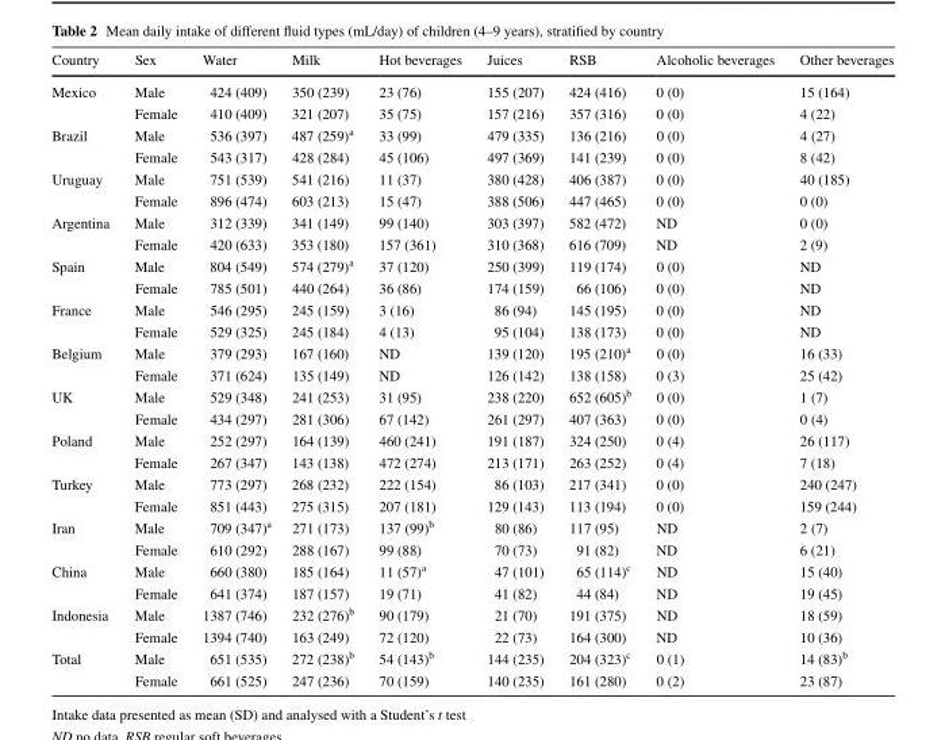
<table><thead><tr><td>Country</td><td>Sex</td><td>Water</td><td>Milk</td><td>Hot beverages</td><td>Juices</td><td>RSB</td><td>Alcoholic beverages</td><td>Other beverages</td></tr></thead><tbody><tr><td rowspan="2">Mexico</td><td>Male</td><td>424 (409)</td><td>350 (239)</td><td>23 (76)</td><td>155 (207)</td><td>424 (416)</td><td>0 (0)</td><td>15 (164)</td></tr><tr><td>Female</td><td>410 (409)</td><td>321 (207)</td><td>35 (75)</td><td>157 (216)</td><td>357 (316)</td><td>0 (0)</td><td>4 (22)</td></tr><tr><td rowspan="2">Brazil</td><td>Male</td><td>536 (397)</td><td>487 (259)<sup>a</sup></td><td>33 (99)</td><td>479 (335)</td><td>136 (216)</td><td>0 (0)</td><td>4 (27)</td></tr><tr><td>Female</td><td>543 (317)</td><td>428 (284)</td><td>45 (106)</td><td>497 (369)</td><td>141 (239)</td><td>0 (0)</td><td>8 (42)</td></tr><tr><td rowspan="2">Uruguay</td><td>Male</td><td>751 (539)</td><td>541 (216)</td><td>11 (37)</td><td>380 (428)</td><td>406 (387)</td><td>0 (0)</td><td>40 (185)</td></tr><tr><td>Female</td><td>896 (474)</td><td>603 (213)</td><td>15 (47)</td><td>388 (506)</td><td>447 (465)</td><td>0 (0)</td><td>0 (0)</td></tr><tr><td rowspan="2">Argentina</td><td>Male</td><td>312 (339)</td><td>341 (149)</td><td>99 (140)</td><td>303 (397)</td><td>582 (472)</td><td>ND</td><td>0 (0)</td></tr><tr><td>Female</td><td>420 (633)</td><td>353 (180)</td><td>157 (361)</td><td>310 (368)</td><td>616 (709)</td><td>ND</td><td>2 (9)</td></tr><tr><td rowspan="2">Spain</td><td>Male</td><td>804 (549)</td><td>574 (279)<sup>a</sup></td><td>37 (120)</td><td>250 (399)</td><td>119 (174)</td><td>0 (0)</td><td>ND</td></tr><tr><td>Female</td><td>785 (501)</td><td>440 (264)</td><td>36 (86)</td><td>174 (159)</td><td>66 (106)</td><td>0 (0)</td><td>ND</td></tr><tr><td rowspan="2">France</td><td>Male</td><td>546 (295)</td><td>245 (159)</td><td>3 (16)</td><td>86 (94)</td><td>145 (195)</td><td>0 (0)</td><td>ND</td></tr><tr><td>Female</td><td>529 (325)</td><td>245 (184)</td><td>4 (13)</td><td>95 (104)</td><td>138 (173)</td><td>0 (0)</td><td>ND</td></tr><tr><td rowspan="2">Belgium</td><td>Male</td><td>379 (293)</td><td>167 (160)</td><td>ND</td><td>139 (120)</td><td>195 (210)<sup>a</sup></td><td>0 (0)</td><td>16 (33)</td></tr><tr><td>Female</td><td>371 (624)</td><td>135 (149)</td><td>ND</td><td>126 (142)</td><td>138 (158)</td><td>0 (3)</td><td>25 (42)</td></tr><tr><td rowspan="2">UK</td><td>Male</td><td>529 (348)</td><td>241 (253)</td><td>31 (95)</td><td>238 (220)</td><td>652 (605)<sup>b</sup></td><td>0 (0)</td><td>1 (7)</td></tr><tr><td>Female</td><td>434 (297)</td><td>281 (306)</td><td>67 (142)</td><td>261 (297)</td><td>407 (363)</td><td>0 (0)</td><td>0 (4)</td></tr><tr><td rowspan="2">Poland</td><td>Male</td><td>252 (297)</td><td>164 (139)</td><td>460 (241)</td><td>191 (187)</td><td>324 (250)</td><td>0 (4)</td><td>26 (117)</td></tr><tr><td>Female</td><td>267 (347)</td><td>143 (138)</td><td>472 (274)</td><td>213 (171)</td><td>263 (252)</td><td>0 (4)</td><td>7 (18)</td></tr><tr><td rowspan="2">Turkey</td><td>Male</td><td>773 (297)</td><td>268 (232)</td><td>222 (154)</td><td>86 (103)</td><td>217 (341)</td><td>0 (0)</td><td>240 (247)</td></tr><tr><td>Female</td><td>851 (443)</td><td>275 (315)</td><td>207 (181)</td><td>129 (143)</td><td>113 (194)</td><td>0 (0)</td><td>159 (244)</td></tr><tr><td rowspan="2">Iran</td><td>Male</td><td>709 (347)<sup>a</sup></td><td>271 (173)</td><td>137 (99)<sup>b</sup></td><td>80 (86)</td><td>117 (95)</td><td>ND</td><td>2 (7)</td></tr><tr><td>Female</td><td>610 (292)</td><td>288 (167)</td><td>99 (88)</td><td>70 (73)</td><td>91 (82)</td><td>ND</td><td>6 (21)</td></tr><tr><td rowspan="2">China</td><td>Male</td><td>660 (380)</td><td>185 (164)</td><td>11 (57)<sup>a</sup></td><td>47 (101)</td><td>65 (114)<sup>c</sup></td><td>ND</td><td>15 (40)</td></tr><tr><td>Female</td><td>641 (374)</td><td>187 (157)</td><td>19 (71)</td><td>41 (82)</td><td>44 (84)</td><td>ND</td><td>19 (45)</td></tr><tr><td rowspan="2">Indonesia</td><td>Male</td><td>1387 (746)</td><td>232 (276)<sup>b</sup></td><td>90 (179)</td><td>21 (70)</td><td>191 (375)</td><td>ND</td><td>18 (59)</td></tr><tr><td>Female</td><td>1394 (740)</td><td>163 (249)</td><td>72 (120)</td><td>22 (73)</td><td>164 (300)</td><td>ND</td><td>10 (36)</td></tr><tr><td rowspan="2">Total</td><td>Male</td><td>651 (535)</td><td>272 (238)<sup>b</sup></td><td>54 (143)<sup>b</sup></td><td>144 (235)</td><td>204 (323)<sup>c</sup></td><td>0 (1)</td><td>14 (83)<sup>b</sup></td></tr><tr><td>Female</td><td>661 (525)</td><td>247 (236)</td><td>70 (159)</td><td>140 (235)</td><td>161 (280)</td><td>0 (2)</td><td>23 (87)</td></tr></tbody></table>